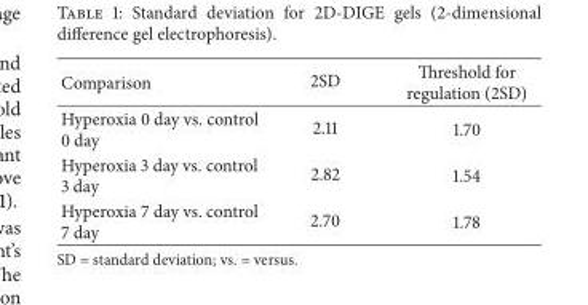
<table><thead><tr><td>Comparison</td><td>2SD</td><td>Threshold for regulation (2SD)</td></tr></thead><tbody><tr><td>Hyperoxia 0 day vs. control 0 day</td><td>2.11</td><td>1.70</td></tr><tr><td>Hyperoxia 3 day vs. control 3 day</td><td>2.82</td><td>1.54</td></tr><tr><td>Hyperoxia 7 day vs. control 7 day</td><td>2.70</td><td>1.78</td></tr></tbody></table>